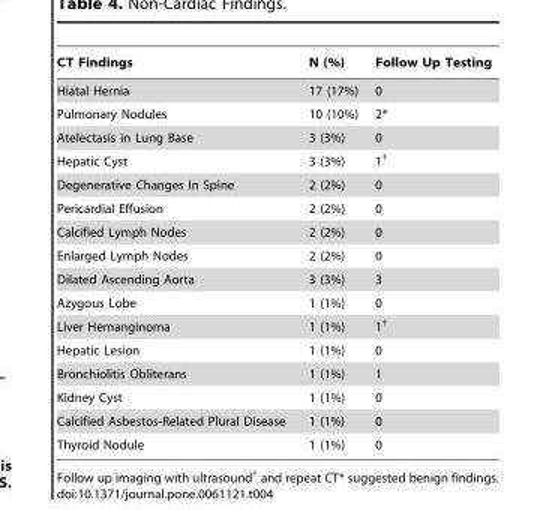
<table><thead><tr><td>CT Findings</td><td>N (%)</td><td>Follow Up Testing</td></tr></thead><tbody><tr><td>Hiatal Hernia</td><td>17 (17%)</td><td>0</td></tr><tr><td>Pulmonary Nodules</td><td>10 (10%)</td><td>2*</td></tr><tr><td>Atelectasis in Lung Base</td><td>3 (3%)</td><td>0</td></tr><tr><td>Hepatic Cyst</td><td>3 (3%)</td><td>1<sup>†</sup></td></tr><tr><td>Degenerative Changes In Spine</td><td>2 (2%)</td><td>0</td></tr><tr><td>Pericardial Effusion</td><td>2 (2%)</td><td>0</td></tr><tr><td>Calcified Lymph Nodes</td><td>2 (2%)</td><td>0</td></tr><tr><td>Enlarged Lymph Nodes</td><td>2 (2%)</td><td>0</td></tr><tr><td>Dilated Ascending Aorta</td><td>3 (3%)</td><td>3</td></tr><tr><td>Azygous Lobe</td><td>1 (1%)</td><td>0</td></tr><tr><td>Liver Hemanginoma</td><td>1 (1%)</td><td>1<sup>†</sup></td></tr><tr><td>Hepatic Lesion</td><td>1 (1%)</td><td>0</td></tr><tr><td>Bronchiolitis Obliterans</td><td>1 (1%)</td><td>1</td></tr><tr><td>Kidney Cyst</td><td>1 (1%)</td><td>0</td></tr><tr><td>Calcified Asbestos-Related Plural Disease</td><td>1 (1%)</td><td>0</td></tr><tr><td>Thyroid Nodule</td><td>1 (1%)</td><td>0</td></tr></tbody></table>